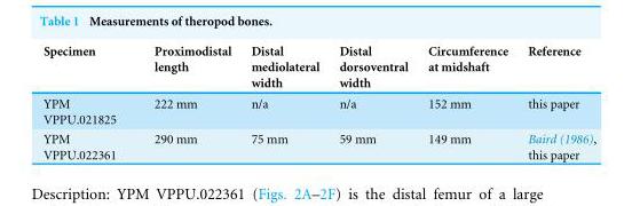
<table><thead><tr><td>Specimen</td><td>Proximodistal length</td><td>Distal mediolateral width</td><td>Distal dorsoventral width</td><td>Circumference at midshaft</td><td>Reference</td></tr></thead><tbody><tr><td>YPM VPPU.021825</td><td>222 mm</td><td>n/a</td><td>n/a</td><td>152 mm</td><td>this paper</td></tr><tr><td>YPM VPPU.022361</td><td>290 mm</td><td>75 mm</td><td>59 mm</td><td>149 mm</td><td>Baird (1986), this paper</td></tr></tbody></table>